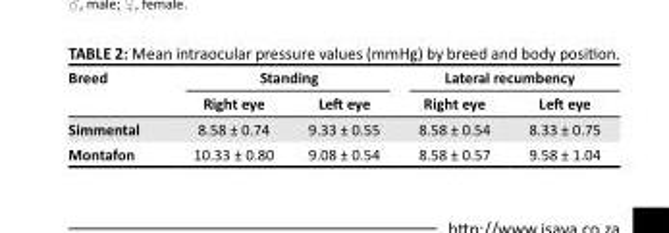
<table><thead><tr><td rowspan="2">Breed</td><td colspan="2">Standing</td><td colspan="2">Lateral recumbency</td></tr><tr><td>Right eye</td><td>Left eye</td><td>Right eye</td><td>Left eye</td></tr></thead><tbody><tr><td>Simmental</td><td>8.58 ± 0.74</td><td>9.33 ± 0.55</td><td>8.58 ± 0.54</td><td>8.33 ± 0.75</td></tr><tr><td>Montafon</td><td>10.33 ± 0.80</td><td>9.08 ± 0.54</td><td>8.58 ± 0.57</td><td>9.58 ± 1.04</td></tr></tbody></table>